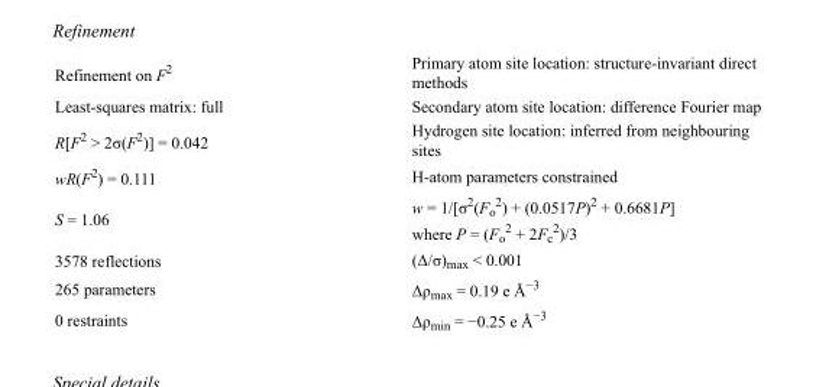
<table><tbody><tr><td>Refinement on F<sup>2</sup></td><td>Primary atom site location: structure-invariant direct methods</td></tr><tr><td>Least-squares matrix: full</td><td>Secondary atom site location: difference Fourier map</td></tr><tr><td>R[F<sup>2</sup> &gt; 2σ(F<sup>2</sup>)] = 0.042</td><td>Hydrogen site location: inferred from neighbouring sites</td></tr><tr><td>wR(F<sup>2</sup>) = 0.111</td><td>H-atom parameters constrained</td></tr><tr><td>S = 1.06</td><td>w = 1/[σ<sup>2</sup>(F<sub>o</sub> <sup>2</sup>) + (0.0517P)<sup>2</sup> + 0.6681P] where P = (F<sub>o</sub> <sup>2</sup> + 2F<sub>c</sub> <sup>2</sup>)/3</td></tr><tr><td>3578 reflections</td><td>(Δ/σ)<sub>max</sub> &lt; 0.001</td></tr><tr><td>265 parameters</td><td>Δρ<sub>max</sub> = 0.19 e Å<sup>−3</sup></td></tr><tr><td>0 restraints</td><td>Δρ<sub>min</sub> = −0.25 e Å<sup>−3</sup></td></tr></tbody></table>